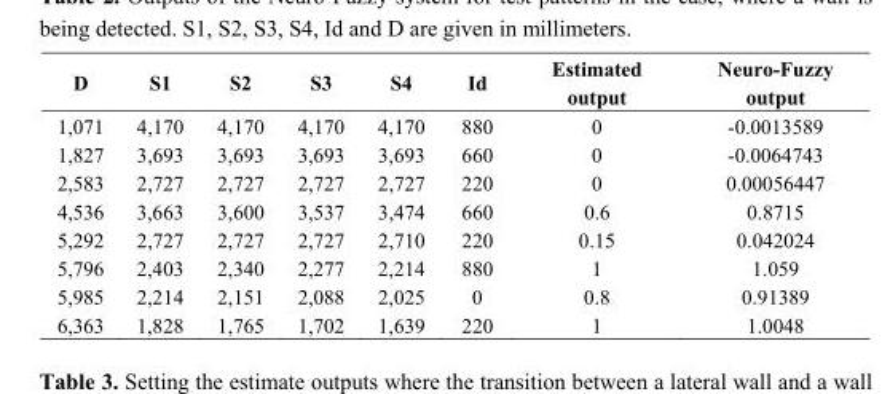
<table><thead><tr><td>D</td><td>S1</td><td>S2</td><td>S3</td><td>S4</td><td>Id</td><td>Estimated output</td><td>Neuro-Fuzzy output</td></tr></thead><tbody><tr><td>1,071</td><td>4,170</td><td>4,170</td><td>4,170</td><td>4,170</td><td>880</td><td>0</td><td>-0.0013589</td></tr><tr><td>1,827</td><td>3,693</td><td>3,693</td><td>3,693</td><td>3,693</td><td>660</td><td>0</td><td>-0.0064743</td></tr><tr><td>2,583</td><td>2,727</td><td>2,727</td><td>2,727</td><td>2,727</td><td>220</td><td>0</td><td>0.00056447</td></tr><tr><td>4,536</td><td>3,663</td><td>3,600</td><td>3,537</td><td>3,474</td><td>660</td><td>0.6</td><td>0.8715</td></tr><tr><td>5,292</td><td>2,727</td><td>2,727</td><td>2,727</td><td>2,710</td><td>220</td><td>0.15</td><td>0.042024</td></tr><tr><td>5,796</td><td>2,403</td><td>2,340</td><td>2,277</td><td>2,214</td><td>880</td><td>1</td><td>1.059</td></tr><tr><td>5,985</td><td>2,214</td><td>2,151</td><td>2,088</td><td>2,025</td><td>0</td><td>0.8</td><td>0.91389</td></tr><tr><td>6,363</td><td>1,828</td><td>1,765</td><td>1,702</td><td>1,639</td><td>220</td><td>1</td><td>1.0048</td></tr></tbody></table>